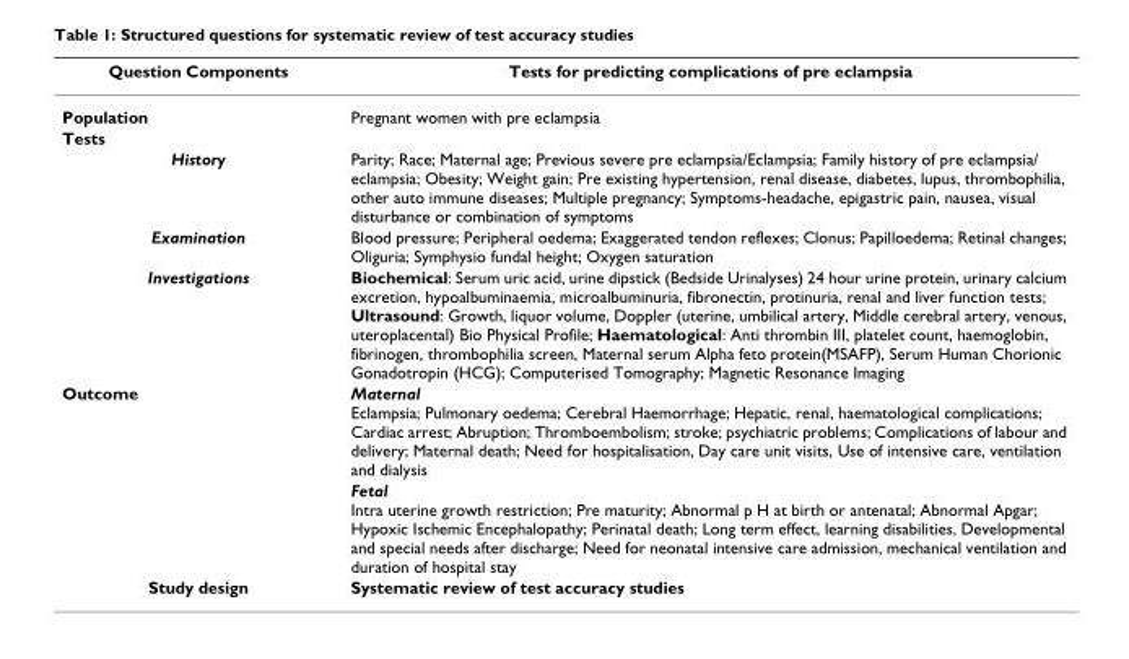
<table><thead><tr><td>Question Components</td><td>Tests for predicting complications of pre eclampsia</td></tr></thead><tbody><tr><td>Population</td><td>Pregnant women with pre eclampsia</td></tr><tr><td colspan="2">Tests</td></tr><tr><td>History</td><td>Parity; Race; Maternal age; Previous severe pre eclampsia/Eclampsia; Family history of pre eclampsia/ eclampsia; Obesity; Weight gain; Pre existing hypertension, renal disease, diabetes, lupus, thrombophilia, other auto immune diseases; Multiple pregnancy; Symptoms-headache, epigastric pain, nausea, visual disturbance or combination of symptoms</td></tr><tr><td>Examination</td><td>Blood pressure; Peripheral oedema; Exaggerated tendon reflexes; Clonus; Papilloedema; Retinal changes; Oliguria; Symphysio fundal height; Oxygen saturation</td></tr><tr><td>Investigations</td><td>Biochemical: Serum uric acid, urine dipstick (Bedside Urinalyses) 24 hour urine protein, urinary calcium excretion, hypoalbuminaemia, microalbuminuria, fibronectin, protinuria, renal and liver function tests; Ultrasound: Growth, liquor volume, Doppler (uterine, umbilical artery, Middle cerebral artery, venous, uteroplacental) Bio Physical Profile; Haematological: Anti thrombin III, platelet count, haemoglobin, fibrinogen, thrombophilia screen, Maternal serum Alpha feto protein(MSAFP), Serum Human Chorionic Gonadotropin (HCG); Computerised Tomography; Magnetic Resonance Imaging</td></tr><tr><td rowspan="2">Outcome</td><td>Maternal Eclampsia; Pulmonary oedema; Cerebral Haemorrhage; Hepatic, renal, haematological complications; Cardiac arrest; Abruption; Thromboembolism; stroke; psychiatric problems; Complications of labour and delivery; Maternal death; Need for hospitalisation, Day care unit visits, Use of intensive care, ventilation and dialysis</td></tr><tr><td>Fetal Intra uterine growth restriction; Pre maturity; Abnormal p H at birth or antenatal; Abnormal Apgar; Hypoxic Ischemic Encephalopathy; Perinatal death; Long term effect, learning disabilities, Developmental and special needs after discharge; Need for neonatal intensive care admission, mechanical ventilation and duration of hospital stay</td></tr><tr><td>Study design</td><td>Systematic review of test accuracy studies</td></tr></tbody></table>